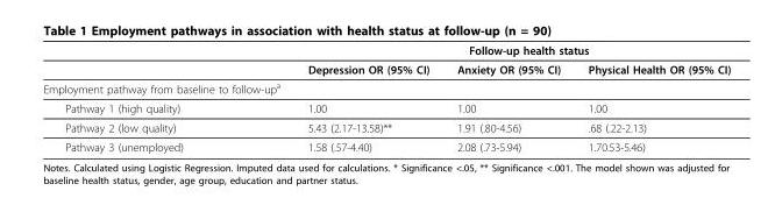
<table><thead><tr><td rowspan="2"></td><td colspan="3">Follow-up health status</td></tr><tr><td>Depression OR (95% CI)</td><td>Anxiety OR (95% CI)</td><td>Physical Health OR (95% CI)</td></tr></thead><tbody><tr><td colspan="4">Employment pathway from baseline to follow-upa</td></tr><tr><td>Pathway 1 (high quality)</td><td>1.00</td><td>1.00</td><td>1.00</td></tr><tr><td>Pathway 2 (low quality)</td><td>5.43 (2.17-13.58)**</td><td>1.91 (.80-4.56)</td><td>.68 (.22-2.13)</td></tr><tr><td>Pathway 3 (unemployed)</td><td>1.58 (.57-4.40)</td><td>2.08 (.73-5.94)</td><td>1.70.53-5.46)</td></tr></tbody></table>